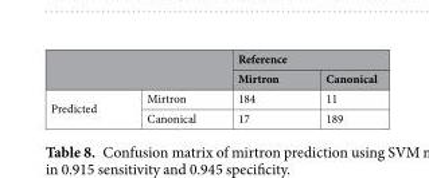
<table><thead><tr><td rowspan="2"></td><td rowspan="2"></td><td colspan="2">Reference</td></tr><tr><td>Mirtron</td><td>Canonical</td></tr></thead><tbody><tr><td rowspan="2">Predicted</td><td>Mirtron</td><td>184</td><td>11</td></tr><tr><td>Canonical</td><td>17</td><td>189</td></tr></tbody></table>